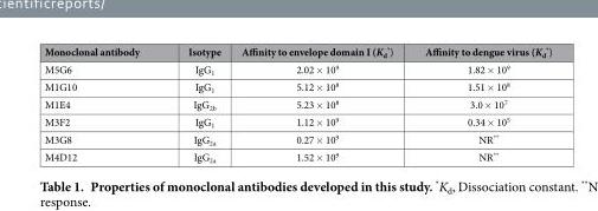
<table><thead><tr><td>Monoclonal antibody</td><td>Isotype</td><td>Affinity to envelope domain I (K<sub>d</sub> *)</td><td>Affinity to dengue virus (K<sub>d</sub> *)</td></tr></thead><tbody><tr><td>M5G6</td><td>IgG<sub>1</sub></td><td>2.02 × 10<sup>9</sup></td><td>1.82 × 10<sup>9</sup></td></tr><tr><td>M1G10</td><td>IgG<sub>1</sub></td><td>5.12 × 10<sup>8</sup></td><td>1.51 × 10<sup>8</sup></td></tr><tr><td>M1E4</td><td>IgG<sub>2b</sub></td><td>5.23 × 10<sup>8</sup></td><td>3.0 × 10<sup>7</sup></td></tr><tr><td>M3F2</td><td>IgG<sub>1</sub></td><td>1.12 × 10<sup>9</sup></td><td>0.34 × 10<sup>5</sup></td></tr><tr><td>M3G8</td><td>IgG<sub>2a</sub></td><td>0.27 × 10<sup>9</sup></td><td>NR**</td></tr><tr><td>M4D12</td><td>IgG<sub>2a</sub></td><td>1.52 × 10<sup>9</sup></td><td>NR**</td></tr></tbody></table>